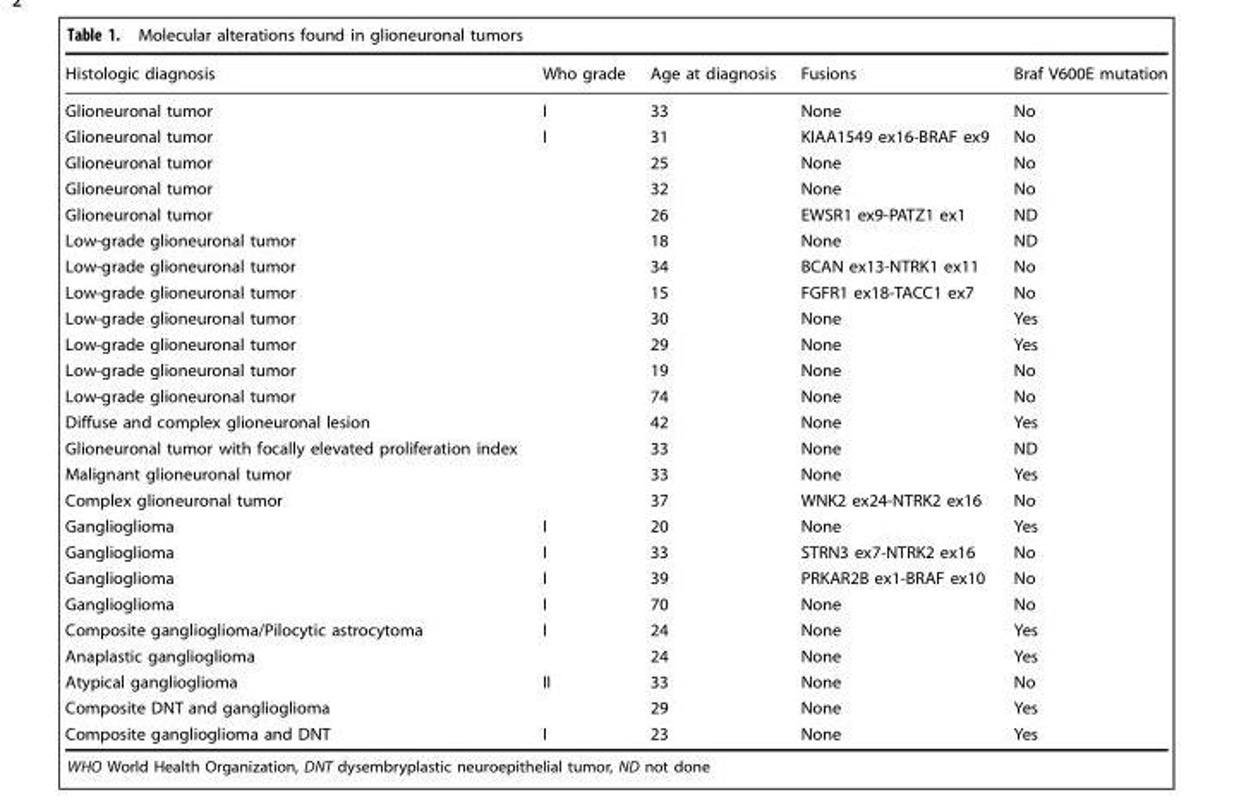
<table><thead><tr><td>Histologic diagnosis</td><td>Who grade</td><td>Age at diagnosis</td><td>Fusions</td><td>Braf V600E mutation</td></tr></thead><tbody><tr><td>Glioneuronal tumor</td><td>I</td><td>33</td><td>None</td><td>No</td></tr><tr><td>Glioneuronal tumor</td><td>I</td><td>31</td><td>KIAA1549 ex16-BRAF ex9</td><td>No</td></tr><tr><td>Glioneuronal tumor</td><td></td><td>25</td><td>None</td><td>No</td></tr><tr><td>Glioneuronal tumor</td><td></td><td>32</td><td>None</td><td>No</td></tr><tr><td>Glioneuronal tumor</td><td></td><td>26</td><td>EWSR1 ex9-PATZ1 ex1</td><td>ND</td></tr><tr><td>Low-grade glioneuronal tumor</td><td></td><td>18</td><td>None</td><td>ND</td></tr><tr><td>Low-grade glioneuronal tumor</td><td></td><td>34</td><td>BCAN ex13-NTRK1 ex11</td><td>No</td></tr><tr><td>Low-grade glioneuronal tumor</td><td></td><td>15</td><td>FGFR1 ex18-TACC1 ex7</td><td>No</td></tr><tr><td>Low-grade glioneuronal tumor</td><td></td><td>30</td><td>None</td><td>Yes</td></tr><tr><td>Low-grade glioneuronal tumor</td><td></td><td>29</td><td>None</td><td>Yes</td></tr><tr><td>Low-grade glioneuronal tumor</td><td></td><td>19</td><td>None</td><td>No</td></tr><tr><td>Low-grade glioneuronal tumor</td><td></td><td>74</td><td>None</td><td>No</td></tr><tr><td>Diffuse and complex glioneuronal lesion</td><td></td><td>42</td><td>None</td><td>Yes</td></tr><tr><td>Glioneuronal tumor with focally elevated proliferation index</td><td></td><td>33</td><td>None</td><td>ND</td></tr><tr><td>Malignant glioneuronal tumor</td><td></td><td>33</td><td>None</td><td>Yes</td></tr><tr><td>Complex glioneuronal tumor</td><td></td><td>37</td><td>WNK2 ex24-NTRK2 ex16</td><td>No</td></tr><tr><td>Ganglioglioma</td><td>I</td><td>20</td><td>None</td><td>Yes</td></tr><tr><td>Ganglioglioma</td><td>I</td><td>33</td><td>STRN3 ex7-NTRK2 ex16</td><td>No</td></tr><tr><td>Ganglioglioma</td><td>I</td><td>39</td><td>PRKAR2B ex1-BRAF ex10</td><td>No</td></tr><tr><td>Ganglioglioma</td><td>I</td><td>70</td><td>None</td><td>No</td></tr><tr><td>Composite ganglioglioma/Pilocytic astrocytoma</td><td>I</td><td>24</td><td>None</td><td>Yes</td></tr><tr><td>Anaplastic ganglioglioma</td><td></td><td>24</td><td>None</td><td>Yes</td></tr><tr><td>Atypical ganglioglioma</td><td>II</td><td>33</td><td>None</td><td>No</td></tr><tr><td>Composite DNT and ganglioglioma</td><td></td><td>29</td><td>None</td><td>Yes</td></tr><tr><td>Composite ganglioglioma and DNT</td><td>I</td><td>23</td><td>None</td><td>Yes</td></tr></tbody></table>